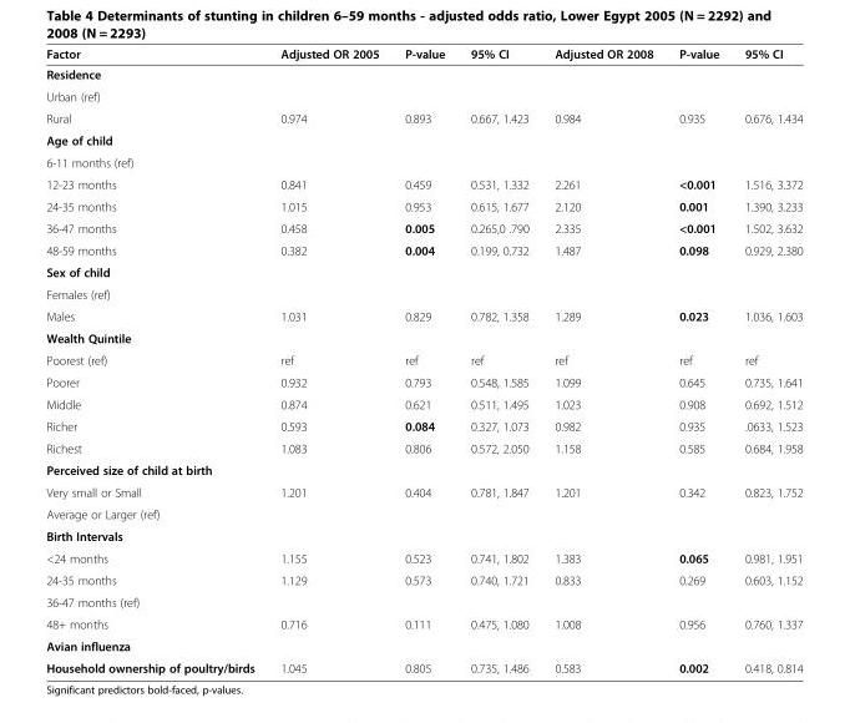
<table><thead><tr><td>Factor</td><td>Adjusted OR 2005</td><td>P-value</td><td>95% CI</td><td>Adjusted OR 2008</td><td>P-value</td><td>95% CI</td></tr></thead><tbody><tr><td colspan="7">Residence</td></tr><tr><td colspan="7">Urban (ref)</td></tr><tr><td>Rural</td><td>0.974</td><td>0.893</td><td>0.667, 1.423</td><td>0.984</td><td>0.935</td><td>0.676, 1.434</td></tr><tr><td colspan="7">Age of child</td></tr><tr><td colspan="7">6-11 months (ref)</td></tr><tr><td>12-23 months</td><td>0.841</td><td>0.459</td><td>0.531, 1.332</td><td>2.261</td><td>&lt;0.001</td><td>1.516, 3.372</td></tr><tr><td>24-35 months</td><td>1.015</td><td>0.953</td><td>0.615, 1.677</td><td>2.120</td><td>0.001</td><td>1.390, 3.233</td></tr><tr><td>36-47 months</td><td>0.458</td><td>0.005</td><td>0.265,0 .790</td><td>2.335</td><td>&lt;0.001</td><td>1.502, 3.632</td></tr><tr><td>48-59 months</td><td>0.382</td><td>0.004</td><td>0.199, 0.732</td><td>1.487</td><td>0.098</td><td>0.929, 2.380</td></tr><tr><td colspan="7">Sex of child</td></tr><tr><td colspan="7">Females (ref)</td></tr><tr><td>Males</td><td>1.031</td><td>0.829</td><td>0.782, 1.358</td><td>1.289</td><td>0.023</td><td>1.036, 1.603</td></tr><tr><td colspan="7">Wealth Quintile</td></tr><tr><td>Poorest (ref)</td><td>ref</td><td>ref</td><td>ref</td><td>ref</td><td>ref</td><td>ref</td></tr><tr><td>Poorer</td><td>0.932</td><td>0.793</td><td>0.548, 1.585</td><td>1.099</td><td>0.645</td><td>0.735, 1.641</td></tr><tr><td>Middle</td><td>0.874</td><td>0.621</td><td>0.511, 1.495</td><td>1.023</td><td>0.908</td><td>0.692, 1.512</td></tr><tr><td>Richer</td><td>0.593</td><td>0.084</td><td>0.327, 1.073</td><td>0.982</td><td>0.935</td><td>.0633, 1.523</td></tr><tr><td>Richest</td><td>1.083</td><td>0.806</td><td>0.572, 2.050</td><td>1.158</td><td>0.585</td><td>0.684, 1.958</td></tr><tr><td colspan="7">Perceived size of child at birth</td></tr><tr><td>Very small or Small</td><td>1.201</td><td>0.404</td><td>0.781, 1.847</td><td>1.201</td><td>0.342</td><td>0.823, 1.752</td></tr><tr><td colspan="7">Average or Larger (ref)</td></tr><tr><td colspan="7">Birth Intervals</td></tr><tr><td>&lt;24 months</td><td>1.155</td><td>0.523</td><td>0.741, 1.802</td><td>1.383</td><td>0.065</td><td>0.981, 1.951</td></tr><tr><td>24-35 months</td><td>1.129</td><td>0.573</td><td>0.740, 1.721</td><td>0.833</td><td>0.269</td><td>0.603, 1.152</td></tr><tr><td colspan="7">36-47 months (ref)</td></tr><tr><td>48+ months</td><td>0.716</td><td>0.111</td><td>0.475, 1.080</td><td>1.008</td><td>0.956</td><td>0.760, 1.337</td></tr><tr><td colspan="7">Avian influenza</td></tr><tr><td>Household ownership of poultry/birds</td><td>1.045</td><td>0.805</td><td>0.735, 1.486</td><td>0.583</td><td>0.002</td><td>0.418, 0.814</td></tr></tbody></table>